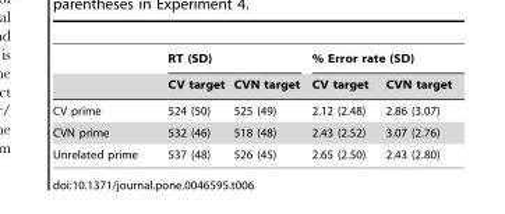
<table><thead><tr><td rowspan="2"></td><td colspan="2">RT (SD)</td><td colspan="2">% Error rate (SD)</td></tr><tr><td>CV target</td><td>CVN target</td><td>CV target</td><td>CVN target</td></tr></thead><tbody><tr><td>CV prime</td><td>524 (50)</td><td>525 (49)</td><td>2.12 (2.48)</td><td>2.86 (3.07)</td></tr><tr><td>CVN prime</td><td>532 (46)</td><td>518 (48)</td><td>2.43 (2.52)</td><td>3.07 (2.76)</td></tr><tr><td>Unrelated prime</td><td>537 (48)</td><td>526 (45)</td><td>2.65 (2.50)</td><td>2.43 (2.80)</td></tr></tbody></table>